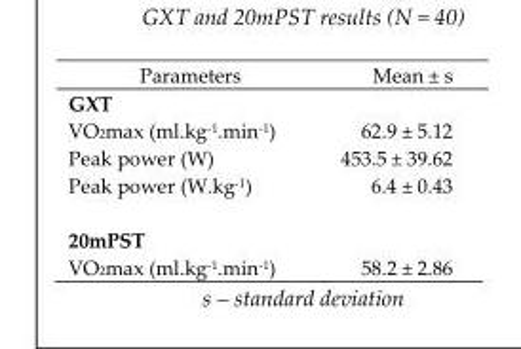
<table><thead><tr><td>Parameters</td><td>Mean ± s</td></tr></thead><tbody><tr><td colspan="2">GXT</td></tr><tr><td>VO<sub>2</sub>max (ml.kg<sup>-1</sup>.min<sup>-1</sup>)</td><td>62.9 ± 5.12</td></tr><tr><td>Peak power (W)</td><td>453.5 ± 39.62</td></tr><tr><td>Peak power (W.kg<sup>-1</sup>)</td><td>6.4 ± 0.43</td></tr><tr><td colspan="2">20mPST</td></tr><tr><td>VO<sub>2</sub>max (ml.kg<sup>-1</sup>.min<sup>-1</sup>)</td><td>58.2 ± 2.86</td></tr></tbody></table>